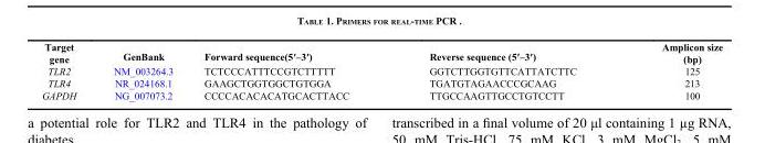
<table><thead><tr><td>Target gene</td><td>GenBank</td><td>Forward sequence(5′–3′)</td><td>Reverse sequence (5′–3′)</td><td>Amplicon size (bp)</td></tr></thead><tbody><tr><td>TLR2</td><td>NM_003264.3</td><td>TCTCCCATTTCCGTCTTTTT</td><td>GGTCTTGGTGTTCATTATCTTC</td><td>125</td></tr><tr><td>TLR4</td><td>NR_024168.1</td><td>GAAGCTGGTGGCTGTGGA</td><td>TGATGTAGAACCCGCAAG</td><td>213</td></tr><tr><td>GAPDH</td><td>NG_007073.2</td><td>CCCCACACACATGCACTTACC</td><td>TTGCCAAGTTGCCTGTCCTT</td><td>100</td></tr></tbody></table>